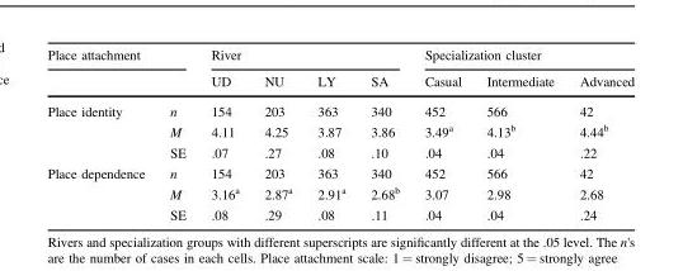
<table><thead><tr><td colspan="2">Place attachment</td><td colspan="4">River</td><td colspan="3">Specialization cluster</td></tr><tr><td></td><td></td><td>UD</td><td>NU</td><td>LY</td><td>SA</td><td>Casual</td><td>Intermediate</td><td>Advanced</td></tr></thead><tbody><tr><td rowspan="3">Place identity</td><td>n</td><td>154</td><td>203</td><td>363</td><td>340</td><td>452</td><td>566</td><td>42</td></tr><tr><td>M</td><td>4.11</td><td>4.25</td><td>3.87</td><td>3.86</td><td>3.49<sup>a</sup></td><td>4.13<sup>b</sup></td><td>4.44<sup>b</sup></td></tr><tr><td>SE</td><td>.07</td><td>.27</td><td>.08</td><td>.10</td><td>.04</td><td>.04</td><td>.22</td></tr><tr><td rowspan="3">Place dependence</td><td>n</td><td>154</td><td>203</td><td>363</td><td>340</td><td>452</td><td>566</td><td>42</td></tr><tr><td>M</td><td>3.16<sup>a</sup></td><td>2.87<sup>a</sup></td><td>2.91<sup>a</sup></td><td>2.68<sup>b</sup></td><td>3.07</td><td>2.98</td><td>2.68</td></tr><tr><td>SE</td><td>.08</td><td>.29</td><td>.08</td><td>.11</td><td>.04</td><td>.04</td><td>.24</td></tr></tbody></table>